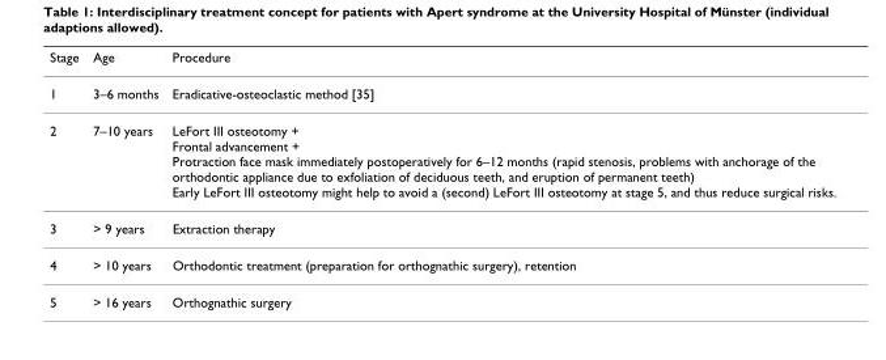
<table><thead><tr><td>Stage</td><td>Age</td><td>Procedure</td></tr></thead><tbody><tr><td>1</td><td>3–6 months</td><td>Eradicative-osteoclastic method [35]</td></tr><tr><td>2</td><td>7–10 years</td><td>LeFort III osteotomy + Frontal advancement + Protraction face mask immediately postoperatively for 6–12 months (rapid stenosis, problems with anchorage of the orthodontic appliance due to exfoliation of deciduous teeth, and eruption of permanent teeth) Early LeFort III osteotomy might help to avoid a (second) LeFort III osteotomy at stage 5, and thus reduce surgical risks.</td></tr><tr><td>3</td><td>&gt; 9 years</td><td>Extraction therapy</td></tr><tr><td>4</td><td>&gt; 10 years</td><td>Orthodontic treatment (preparation for orthognathic surgery), retention</td></tr><tr><td>5</td><td>&gt; 16 years</td><td>Orthognathic surgery</td></tr></tbody></table>